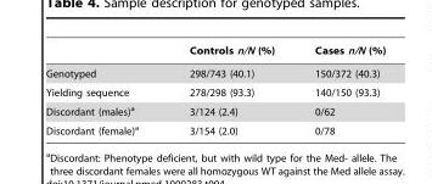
<table><thead><tr><td></td><td>Controls n/N (%)</td><td>Cases n/N (%)</td></tr></thead><tbody><tr><td>Genotyped</td><td>298/743 (40.1)</td><td>150/372 (40.3)</td></tr><tr><td>Yielding sequence</td><td>278/298 (93.3)</td><td>140/150 (93.3)</td></tr><tr><td>Discordant (males)<sup>a</sup></td><td>3/124 (2.4)</td><td>0/62</td></tr><tr><td>Discordant (female)<sup>a</sup></td><td>3/154 (2.0)</td><td>0/78</td></tr></tbody></table>